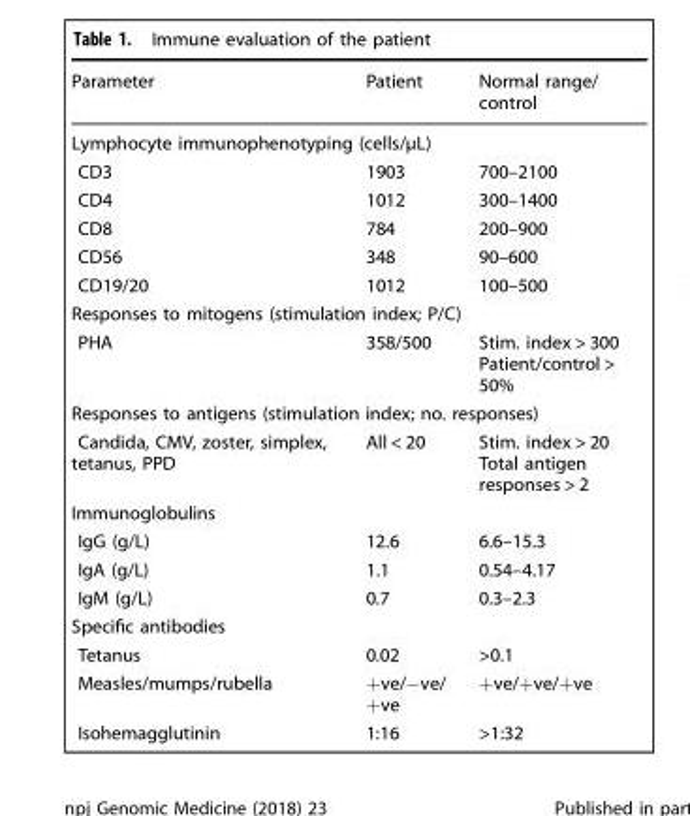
<table><thead><tr><td>Parameter</td><td>Patient</td><td>Normal range/ control</td></tr></thead><tbody><tr><td colspan="3">Lymphocyte immunophenotyping (cells/µL)</td></tr><tr><td>CD3</td><td>1903</td><td>700–2100</td></tr><tr><td>CD4</td><td>1012</td><td>300–1400</td></tr><tr><td>CD8</td><td>784</td><td>200–900</td></tr><tr><td>CD56</td><td>348</td><td>90–600</td></tr><tr><td>CD19/20</td><td>1012</td><td>100–500</td></tr><tr><td colspan="3">Responses to mitogens (stimulation index; P/C)</td></tr><tr><td>PHA</td><td>358/500</td><td>Stim. index &gt; 300 Patient/control &gt; 50%</td></tr><tr><td colspan="3">Responses to antigens (stimulation index; no. responses)</td></tr><tr><td>Candida, CMV, zoster, simplex, tetanus, PPD</td><td>All &lt; 20</td><td>Stim. index &gt; 20 Total antigen responses &gt; 2</td></tr><tr><td colspan="3">Immunoglobulins</td></tr><tr><td>IgG (g/L)</td><td>12.6</td><td>6.6–15.3</td></tr><tr><td>IgA (g/L)</td><td>1.1</td><td>0.54–4.17</td></tr><tr><td>IgM (g/L)</td><td>0.7</td><td>0.3–2.3</td></tr><tr><td colspan="3">Specific antibodies</td></tr><tr><td>Tetanus</td><td>0.02</td><td>&gt;0.1</td></tr><tr><td>Measles/mumps/rubella</td><td>+ve/−ve/ +ve</td><td>+ve/+ve/+ve</td></tr><tr><td>Isohemagglutinin</td><td>1:16</td><td>&gt;1:32</td></tr></tbody></table>